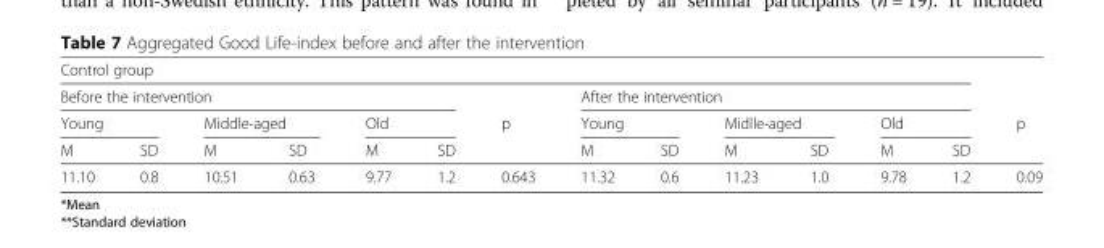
<table><thead><tr><td colspan="13">Control group</td><td rowspan="4">p</td></tr><tr><td colspan="6">Before the intervention</td><td rowspan="3">p</td><td colspan="6">After the intervention</td></tr><tr><td colspan="2">Young</td><td colspan="2">Middle-aged</td><td colspan="2">Old</td><td colspan="2">Young</td><td colspan="2">Midlle-aged</td><td colspan="2">Old</td></tr><tr><td>M</td><td>SD</td><td>M</td><td>SD</td><td>M</td><td>SD</td><td>M</td><td>SD</td><td>M</td><td>SD</td><td>M</td><td>SD</td></tr></thead><tbody><tr><td>11.10</td><td>0.8</td><td>10.51</td><td>0.63</td><td>9.77</td><td>1.2</td><td>0.643</td><td>11.32</td><td>0.6</td><td>11.23</td><td>1.0</td><td>9.78</td><td>1.2</td><td>0.09</td></tr></tbody></table>